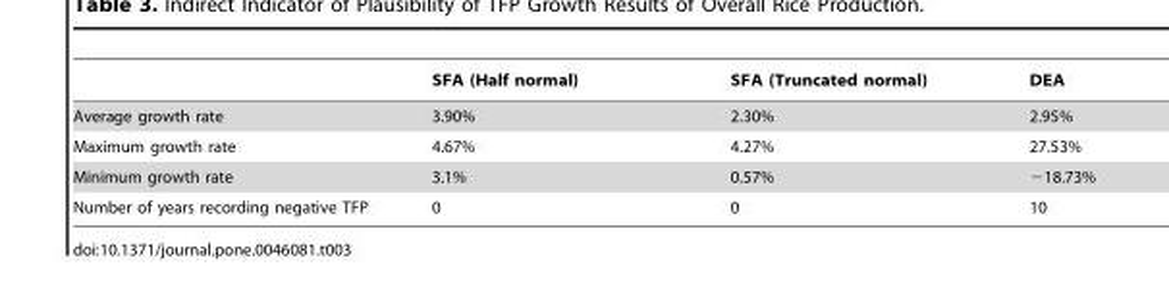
<table><thead><tr><td></td><td>SFA (Half normal)</td><td>SFA (Truncated normal)</td><td>DEA</td></tr></thead><tbody><tr><td>Average growth rate</td><td>3.90%</td><td>2.30%</td><td>2.95%</td></tr><tr><td>Maximum growth rate</td><td>4.67%</td><td>4.27%</td><td>27.53%</td></tr><tr><td>Minimum growth rate</td><td>3.1%</td><td>0.57%</td><td>−18.73%</td></tr><tr><td>Number of years recording negative TFP</td><td>0</td><td>0</td><td>10</td></tr></tbody></table>